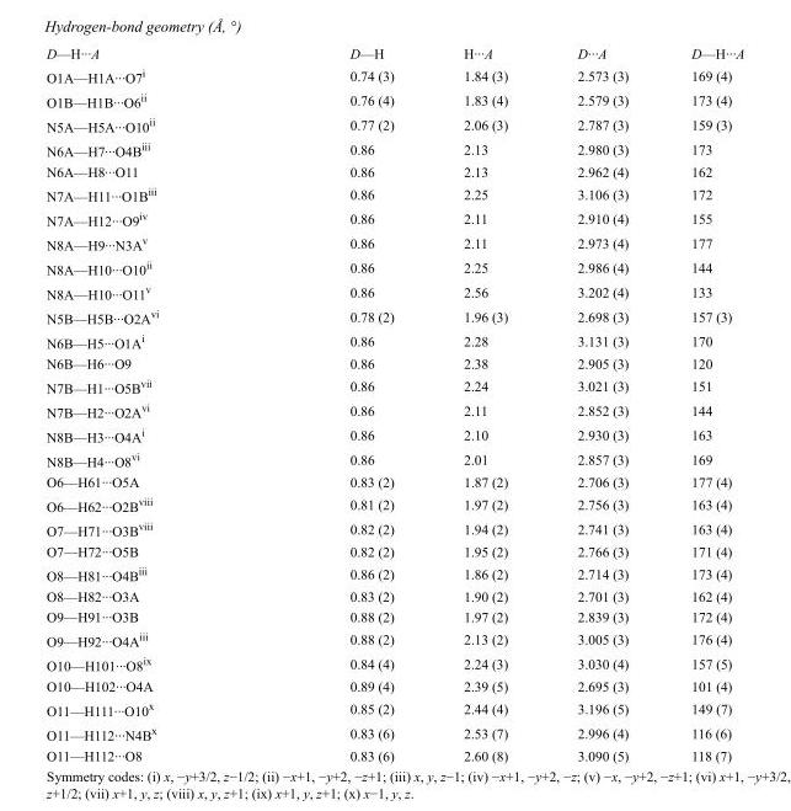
<table><tbody><tr><td>D—H···A</td><td>D—H</td><td>H···A</td><td>D···A</td><td>D—H···A</td></tr><tr><td>O1A—H1A···O7<sup>i</sup></td><td>0.74 (3)</td><td>1.84 (3)</td><td>2.573 (3)</td><td>169 (4)</td></tr><tr><td>O1B—H1B···O6<sup>ii</sup></td><td>0.76 (4)</td><td>1.83 (4)</td><td>2.579 (3)</td><td>173 (4)</td></tr><tr><td>N5A—H5A···O10<sup>ii</sup></td><td>0.77 (2)</td><td>2.06 (3)</td><td>2.787 (3)</td><td>159 (3)</td></tr><tr><td>N6A—H7···O4B<sup>iii</sup></td><td>0.86</td><td>2.13</td><td>2.980 (3)</td><td>173</td></tr><tr><td>N6A—H8···O11</td><td>0.86</td><td>2.13</td><td>2.962 (4)</td><td>162</td></tr><tr><td>N7A—H11···O1B<sup>iii</sup></td><td>0.86</td><td>2.25</td><td>3.106 (3)</td><td>172</td></tr><tr><td>N7A—H12···O9<sup>iv</sup></td><td>0.86</td><td>2.11</td><td>2.910 (4)</td><td>155</td></tr><tr><td>N8A—H9···N3A<sup>v</sup></td><td>0.86</td><td>2.11</td><td>2.973 (4)</td><td>177</td></tr><tr><td>N8A—H10···O10<sup>ii</sup></td><td>0.86</td><td>2.25</td><td>2.986 (4)</td><td>144</td></tr><tr><td>N8A—H10···O11<sup>v</sup></td><td>0.86</td><td>2.56</td><td>3.202 (4)</td><td>133</td></tr><tr><td>N5B—H5B···O2A<sup>vi</sup></td><td>0.78 (2)</td><td>1.96 (3)</td><td>2.698 (3)</td><td>157 (3)</td></tr><tr><td>N6B—H5···O1A<sup>i</sup></td><td>0.86</td><td>2.28</td><td>3.131 (3)</td><td>170</td></tr><tr><td>N6B—H6···O9</td><td>0.86</td><td>2.38</td><td>2.905 (3)</td><td>120</td></tr><tr><td>N7B—H1···O5B<sup>vii</sup></td><td>0.86</td><td>2.24</td><td>3.021 (3)</td><td>151</td></tr><tr><td>N7B—H2···O2A<sup>vi</sup></td><td>0.86</td><td>2.11</td><td>2.852 (3)</td><td>144</td></tr><tr><td>N8B—H3···O4A<sup>i</sup></td><td>0.86</td><td>2.10</td><td>2.930 (3)</td><td>163</td></tr><tr><td>N8B—H4···O8<sup>vi</sup></td><td>0.86</td><td>2.01</td><td>2.857 (3)</td><td>169</td></tr><tr><td>O6—H61···O5A</td><td>0.83 (2)</td><td>1.87 (2)</td><td>2.706 (3)</td><td>177 (4)</td></tr><tr><td>O6—H62···O2B<sup>viii</sup></td><td>0.81 (2)</td><td>1.97 (2)</td><td>2.756 (3)</td><td>163 (4)</td></tr><tr><td>O7—H71···O3B<sup>viii</sup></td><td>0.82 (2)</td><td>1.94 (2)</td><td>2.741 (3)</td><td>163 (4)</td></tr><tr><td>O7—H72···O5B</td><td>0.82 (2)</td><td>1.95 (2)</td><td>2.766 (3)</td><td>171 (4)</td></tr><tr><td>O8—H81···O4B<sup>iii</sup></td><td>0.86 (2)</td><td>1.86 (2)</td><td>2.714 (3)</td><td>173 (4)</td></tr><tr><td>O8—H82···O3A</td><td>0.83 (2)</td><td>1.90 (2)</td><td>2.701 (3)</td><td>162 (4)</td></tr><tr><td>O9—H91···O3B</td><td>0.88 (2)</td><td>1.97 (2)</td><td>2.839 (3)</td><td>172 (4)</td></tr><tr><td>O9—H92···O4A<sup>iii</sup></td><td>0.88 (2)</td><td>2.13 (2)</td><td>3.005 (3)</td><td>176 (4)</td></tr><tr><td>O10—H101···O8<sup>ix</sup></td><td>0.84 (4)</td><td>2.24 (3)</td><td>3.030 (4)</td><td>157 (5)</td></tr><tr><td>O10—H102···O4A</td><td>0.89 (4)</td><td>2.39 (5)</td><td>2.695 (3)</td><td>101 (4)</td></tr><tr><td>O11—H111···O10<sup>x</sup></td><td>0.85 (2)</td><td>2.44 (4)</td><td>3.196 (5)</td><td>149 (7)</td></tr><tr><td>O11—H112···N4B<sup>x</sup></td><td>0.83 (6)</td><td>2.53 (7)</td><td>2.996 (4)</td><td>116 (6)</td></tr><tr><td>O11—H112···O8</td><td>0.83 (6)</td><td>2.60 (8)</td><td>3.090 (5)</td><td>118 (7)</td></tr></tbody></table>